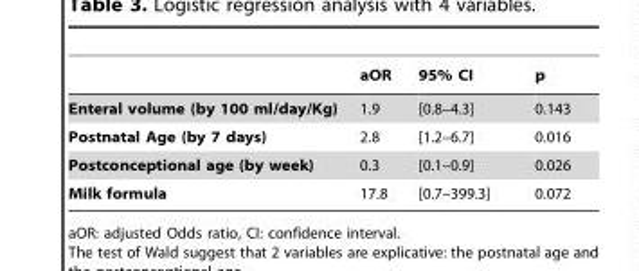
<table><thead><tr><td></td><td>aOR</td><td>95% CI</td><td>p</td></tr></thead><tbody><tr><td>Enteral volume (by 100 ml/day/Kg)</td><td>1.9</td><td>[0.8–4.3]</td><td>0.143</td></tr><tr><td>Postnatal Age (by 7 days)</td><td>2.8</td><td>[1.2–6.7]</td><td>0.016</td></tr><tr><td>Postconceptional age (by week)</td><td>0.3</td><td>[0.1–0.9]</td><td>0.026</td></tr><tr><td>Milk formula</td><td>17.8</td><td>[0.7–399.3]</td><td>0.072</td></tr></tbody></table>